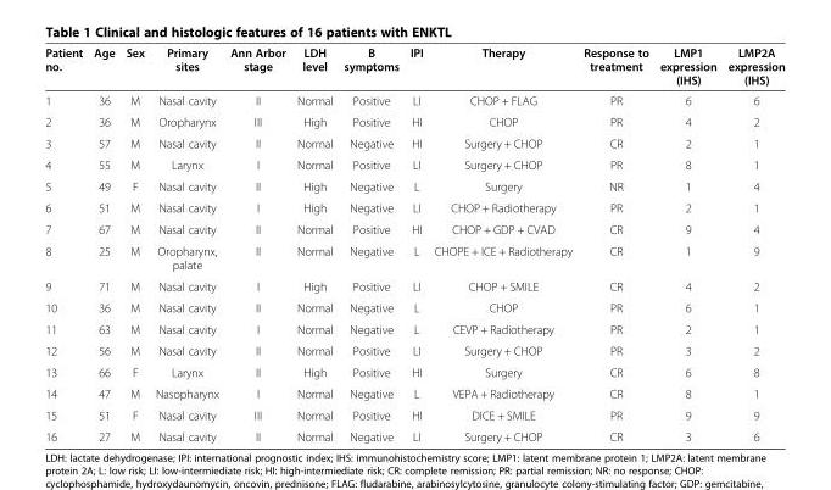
<table><thead><tr><td>Patient no.</td><td>Age</td><td>Sex</td><td>Primary sites</td><td>Ann Arbor stage</td><td>LDH level</td><td>B symptoms</td><td>IPI</td><td>Therapy</td><td>Response to treatment</td><td>LMP1 expression (IHS)</td><td>LMP2A expression (IHS)</td></tr></thead><tbody><tr><td>1</td><td>36</td><td>M</td><td>Nasal cavity</td><td>II</td><td>Normal</td><td>Positive</td><td>LI</td><td>CHOP + FLAG</td><td>PR</td><td>6</td><td>6</td></tr><tr><td>2</td><td>36</td><td>M</td><td>Oropharynx</td><td>III</td><td>High</td><td>Positive</td><td>HI</td><td>CHOP</td><td>PR</td><td>4</td><td>2</td></tr><tr><td>3</td><td>57</td><td>M</td><td>Nasal cavity</td><td>II</td><td>Normal</td><td>Negative</td><td>HI</td><td>Surgery + CHOP</td><td>CR</td><td>2</td><td>1</td></tr><tr><td>4</td><td>55</td><td>M</td><td>Larynx</td><td>I</td><td>Normal</td><td>Positive</td><td>LI</td><td>Surgery + CHOP</td><td>PR</td><td>8</td><td>1</td></tr><tr><td>5</td><td>49</td><td>F</td><td>Nasal cavity</td><td>II</td><td>High</td><td>Negative</td><td>L</td><td>Surgery</td><td>NR</td><td>1</td><td>4</td></tr><tr><td>6</td><td>51</td><td>M</td><td>Nasal cavity</td><td>I</td><td>High</td><td>Negative</td><td>LI</td><td>CHOP + Radiotherapy</td><td>PR</td><td>2</td><td>1</td></tr><tr><td>7</td><td>67</td><td>M</td><td>Nasal cavity</td><td>II</td><td>Normal</td><td>Positive</td><td>HI</td><td>CHOP + GDP + CVAD</td><td>CR</td><td>9</td><td>4</td></tr><tr><td>8</td><td>25</td><td>M</td><td>Oropharynx, palate</td><td>II</td><td>Normal</td><td>Negative</td><td>L</td><td>CHOPE + ICE + Radiotherapy</td><td>CR</td><td>1</td><td>9</td></tr><tr><td>9</td><td>71</td><td>M</td><td>Nasal cavity</td><td>I</td><td>High</td><td>Positive</td><td>LI</td><td>CHOP + SMILE</td><td>CR</td><td>4</td><td>2</td></tr><tr><td>10</td><td>36</td><td>M</td><td>Nasal cavity</td><td>II</td><td>Normal</td><td>Negative</td><td>L</td><td>CHOP</td><td>PR</td><td>6</td><td>1</td></tr><tr><td>11</td><td>63</td><td>M</td><td>Nasal cavity</td><td>I</td><td>Normal</td><td>Negative</td><td>L</td><td>CEVP + Radiotherapy</td><td>PR</td><td>2</td><td>1</td></tr><tr><td>12</td><td>56</td><td>M</td><td>Nasal cavity</td><td>II</td><td>Normal</td><td>Positive</td><td>LI</td><td>Surgery + CHOP</td><td>PR</td><td>3</td><td>2</td></tr><tr><td>13</td><td>66</td><td>F</td><td>Larynx</td><td>II</td><td>High</td><td>Positive</td><td>HI</td><td>Surgery</td><td>CR</td><td>6</td><td>8</td></tr><tr><td>14</td><td>47</td><td>M</td><td>Nasopharynx</td><td>I</td><td>Normal</td><td>Negative</td><td>L</td><td>VEPA + Radiotherapy</td><td>CR</td><td>8</td><td>1</td></tr><tr><td>15</td><td>51</td><td>F</td><td>Nasal cavity</td><td>III</td><td>Normal</td><td>Positive</td><td>HI</td><td>DICE + SMILE</td><td>PR</td><td>9</td><td>9</td></tr><tr><td>16</td><td>27</td><td>M</td><td>Nasal cavity</td><td>II</td><td>Normal</td><td>Negative</td><td>LI</td><td>Surgery + CHOP</td><td>CR</td><td>3</td><td>6</td></tr></tbody></table>